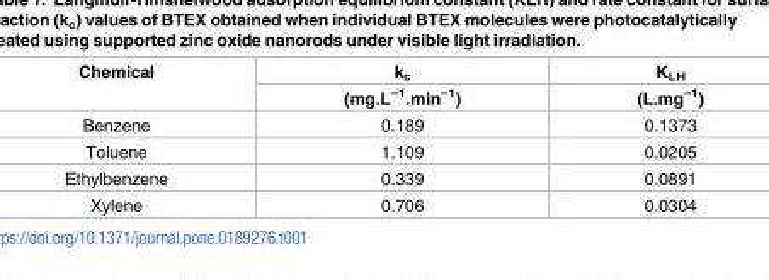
<table><thead><tr><td rowspan="2">Chemical</td><td rowspan="2">k<sub>c</sub> (mg.L<sup>−1</sup>.min<sup>−1</sup>)</td><td rowspan="2">K<sub>LH</sub> (L.mg<sup>−1</sup>)</td></tr><tr></tr></thead><tbody><tr><td>Benzene</td><td>0.189</td><td>0.1373</td></tr><tr><td>Toluene</td><td>1.109</td><td>0.0205</td></tr><tr><td>Ethylbenzene</td><td>0.339</td><td>0.0891</td></tr><tr><td>Xylene</td><td>0.706</td><td>0.0304</td></tr></tbody></table>